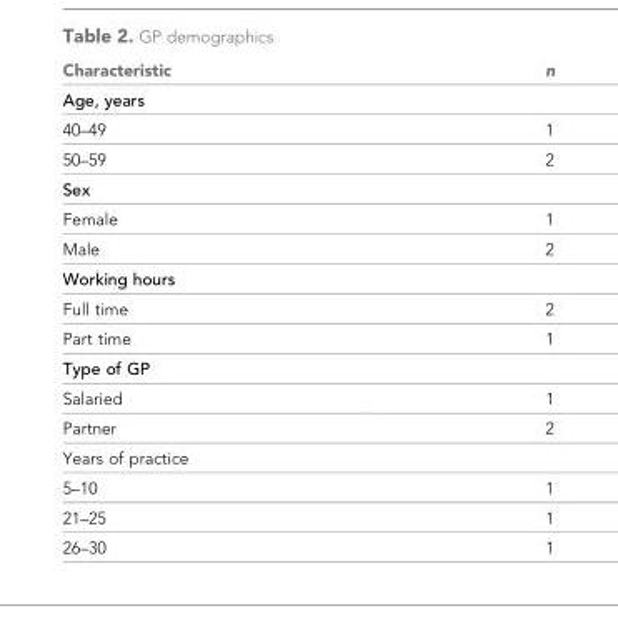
<table><thead><tr><td>Characteristic</td><td>n</td></tr></thead><tbody><tr><td colspan="2">Age, years</td></tr><tr><td>40–49</td><td>1</td></tr><tr><td>50–59</td><td>2</td></tr><tr><td colspan="2">Sex</td></tr><tr><td>Female</td><td>1</td></tr><tr><td>Male</td><td>2</td></tr><tr><td colspan="2">Working hours</td></tr><tr><td>Full time</td><td>2</td></tr><tr><td>Part time</td><td>1</td></tr><tr><td colspan="2">Type of GP</td></tr><tr><td>Salaried</td><td>1</td></tr><tr><td>Partner</td><td>2</td></tr><tr><td colspan="2">Years of practice</td></tr><tr><td>5–10</td><td>1</td></tr><tr><td>21–25</td><td>1</td></tr><tr><td>26–30</td><td>1</td></tr></tbody></table>